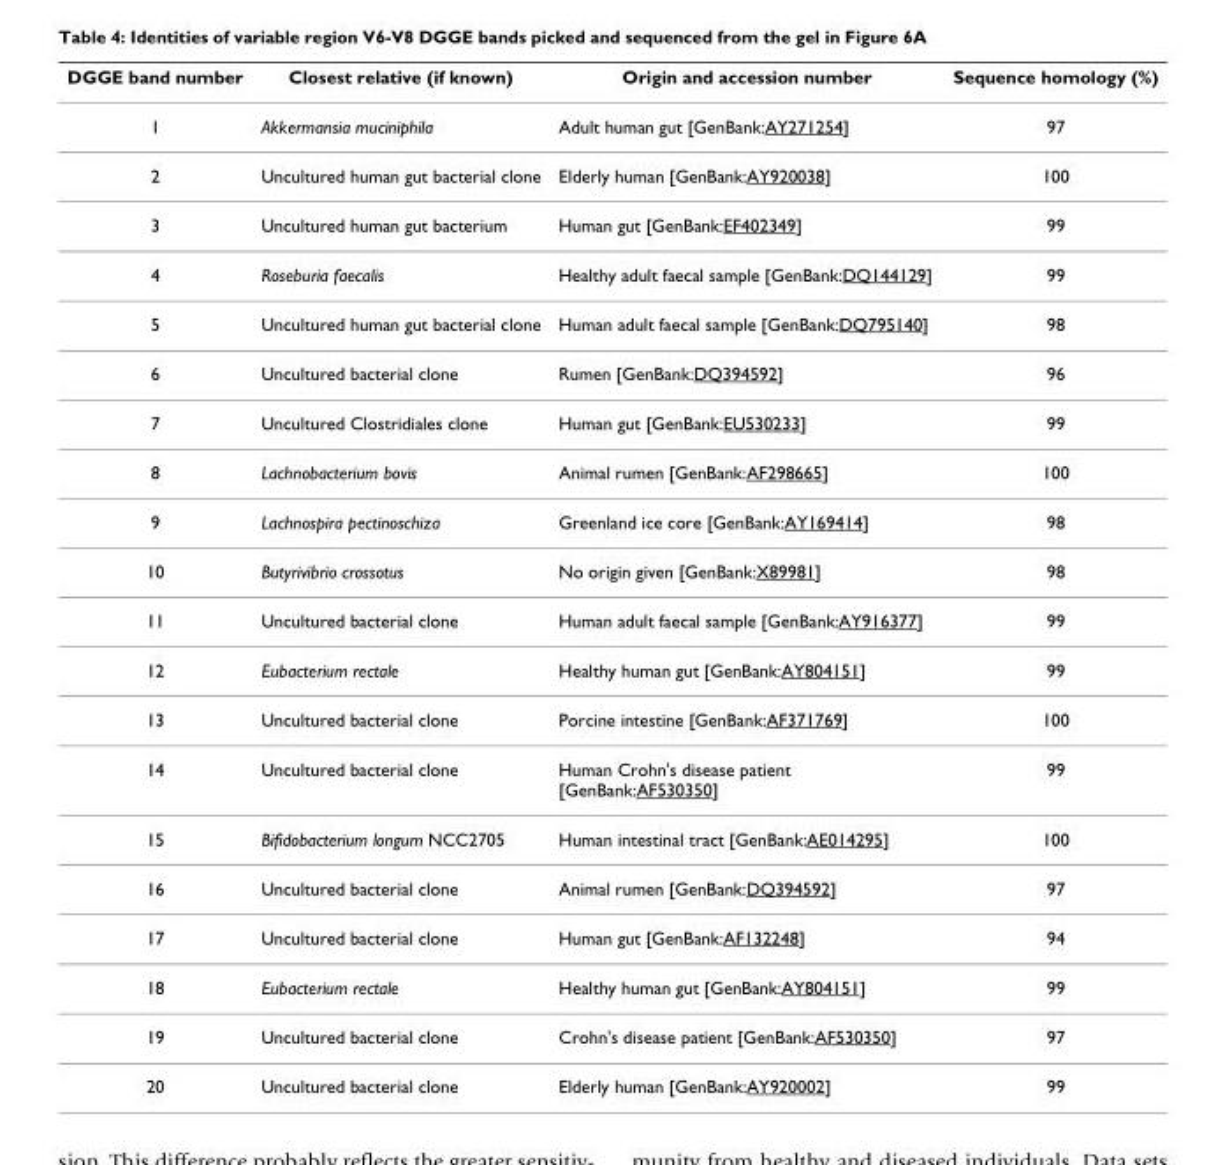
<table><thead><tr><td>DGGE band number</td><td>Closest relative (if known)</td><td>Origin and accession number</td><td>Sequence homology (%)</td></tr></thead><tbody><tr><td>1</td><td>Akkermansia muciniphila</td><td>Adult human gut [GenBank:AY271254]</td><td>97</td></tr><tr><td>2</td><td>Uncultured human gut bacterial clone</td><td>Elderly human [GenBank:AY920038]</td><td>100</td></tr><tr><td>3</td><td>Uncultured human gut bacterium</td><td>Human gut [GenBank:EF402349]</td><td>99</td></tr><tr><td>4</td><td>Roseburia faecalis</td><td>Healthy adult faecal sample [GenBank:DQ144129]</td><td>99</td></tr><tr><td>5</td><td>Uncultured human gut bacterial clone</td><td>Human adult faecal sample [GenBank:DQ795140]</td><td>98</td></tr><tr><td>6</td><td>Uncultured bacterial clone</td><td>Rumen [GenBank:DQ394592]</td><td>96</td></tr><tr><td>7</td><td>Uncultured Clostridiales clone</td><td>Human gut [GenBank:EU530233]</td><td>99</td></tr><tr><td>8</td><td>Lachnobacterium bovis</td><td>Animal rumen [GenBank:AF298665]</td><td>100</td></tr><tr><td>9</td><td>Lachnospira pectinoschiza</td><td>Greenland ice core [GenBank:AY169414]</td><td>98</td></tr><tr><td>10</td><td>Butyrivibrio crossotus</td><td>No origin given [GenBank:X89981]</td><td>98</td></tr><tr><td>11</td><td>Uncultured bacterial clone</td><td>Human adult faecal sample [GenBank:AY916377]</td><td>99</td></tr><tr><td>12</td><td>Eubacterium rectale</td><td>Healthy human gut [GenBank:AY804151]</td><td>99</td></tr><tr><td>13</td><td>Uncultured bacterial clone</td><td>Porcine intestine [GenBank:AF371769]</td><td>100</td></tr><tr><td>14</td><td>Uncultured bacterial clone</td><td>Human Crohn&#x27;s disease patient [GenBank:AF530350]</td><td>99</td></tr><tr><td>15</td><td>Bifidobacterium longum NCC2705</td><td>Human intestinal tract [GenBank:AE014295]</td><td>100</td></tr><tr><td>16</td><td>Uncultured bacterial clone</td><td>Animal rumen [GenBank:DQ394592]</td><td>97</td></tr><tr><td>17</td><td>Uncultured bacterial clone</td><td>Human gut [GenBank:AF132248]</td><td>94</td></tr><tr><td>18</td><td>Eubacterium rectale</td><td>Healthy human gut [GenBank:AY804151]</td><td>99</td></tr><tr><td>19</td><td>Uncultured bacterial clone</td><td>Crohn&#x27;s disease patient [GenBank:AF530350]</td><td>97</td></tr><tr><td>20</td><td>Uncultured bacterial clone</td><td>Elderly human [GenBank:AY920002]</td><td>99</td></tr></tbody></table>